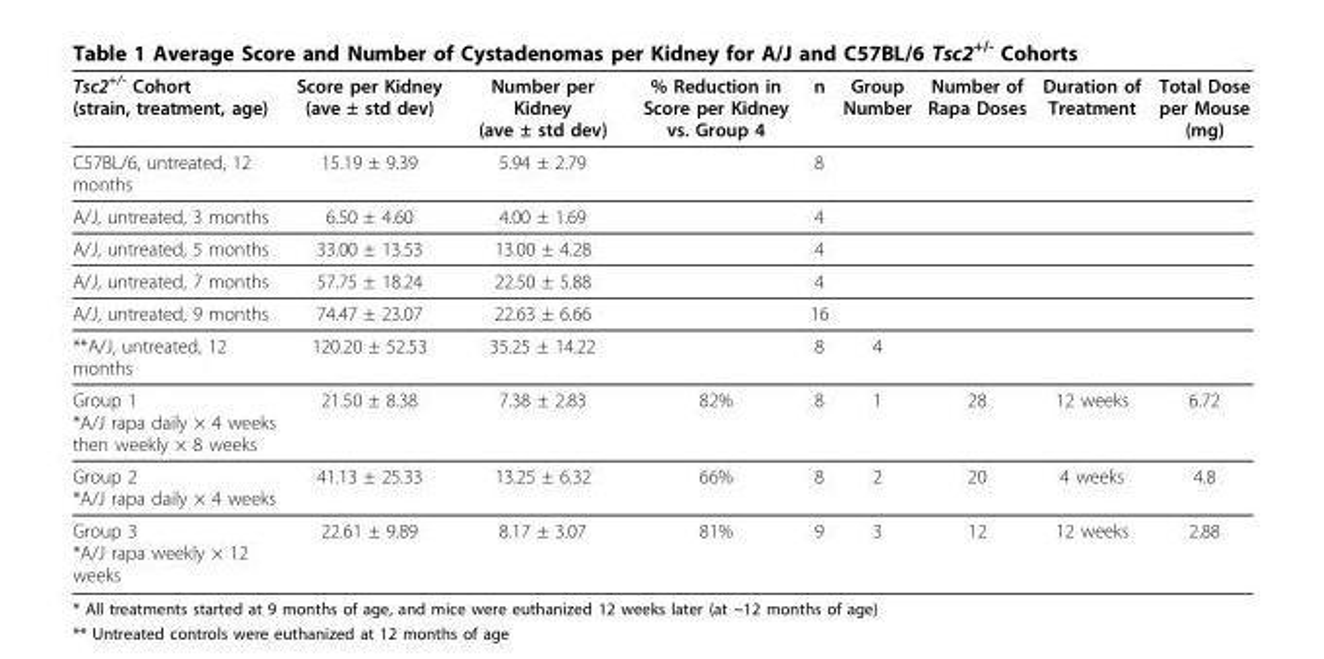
<table><thead><tr><td>Tsc2<sup>+/-</sup> Cohort (strain, treatment, age)</td><td>Score per Kidney (ave ± std dev)</td><td>Number per Kidney (ave ± std dev)</td><td>% Reduction in Score per Kidney vs. Group 4</td><td>n</td><td>Group Number</td><td>Number of Rapa Doses</td><td>Duration of Treatment</td><td>Total Dose per Mouse (mg)</td></tr></thead><tbody><tr><td>C57BL/6, untreated, 12 months</td><td>15.19 ± 9.39</td><td>5.94 ± 2.79</td><td></td><td>8</td><td></td><td></td><td></td><td></td></tr><tr><td>A/J, untreated, 3 months</td><td>6.50 ± 4.60</td><td>4.00 ± 1.69</td><td></td><td>4</td><td></td><td></td><td></td><td></td></tr><tr><td>A/J, untreated, 5 months</td><td>33.00 ± 13.53</td><td>13.00 ± 4.28</td><td></td><td>4</td><td></td><td></td><td></td><td></td></tr><tr><td>A/J, untreated, 7 months</td><td>57.75 ± 18.24</td><td>22.50 ± 5.88</td><td></td><td>4</td><td></td><td></td><td></td><td></td></tr><tr><td>A/J, untreated, 9 months</td><td>74.47 ± 23.07</td><td>22.63 ± 6.66</td><td></td><td>16</td><td></td><td></td><td></td><td></td></tr><tr><td>**A/J, untreated, 12 months</td><td>120.20 ± 52.53</td><td>35.25 ± 14.22</td><td></td><td>8</td><td>4</td><td></td><td></td><td></td></tr><tr><td>Group 1 *A/J rapa daily × 4 weeks then weekly × 8 weeks</td><td>21.50 ± 8.38</td><td>7.38 ± 2.83</td><td>82%</td><td>8</td><td>1</td><td>28</td><td>12 weeks</td><td>6.72</td></tr><tr><td>Group 2 *A/J rapa daily × 4 weeks</td><td>41.13 ± 25.33</td><td>13.25 ± 6.32</td><td>66%</td><td>8</td><td>2</td><td>20</td><td>4 weeks</td><td>4.8</td></tr><tr><td>Group 3 *A/J rapa weekly × 12 weeks</td><td>22.61 ± 9.89</td><td>8.17 ± 3.07</td><td>81%</td><td>9</td><td>3</td><td>12</td><td>12 weeks</td><td>2.88</td></tr></tbody></table>